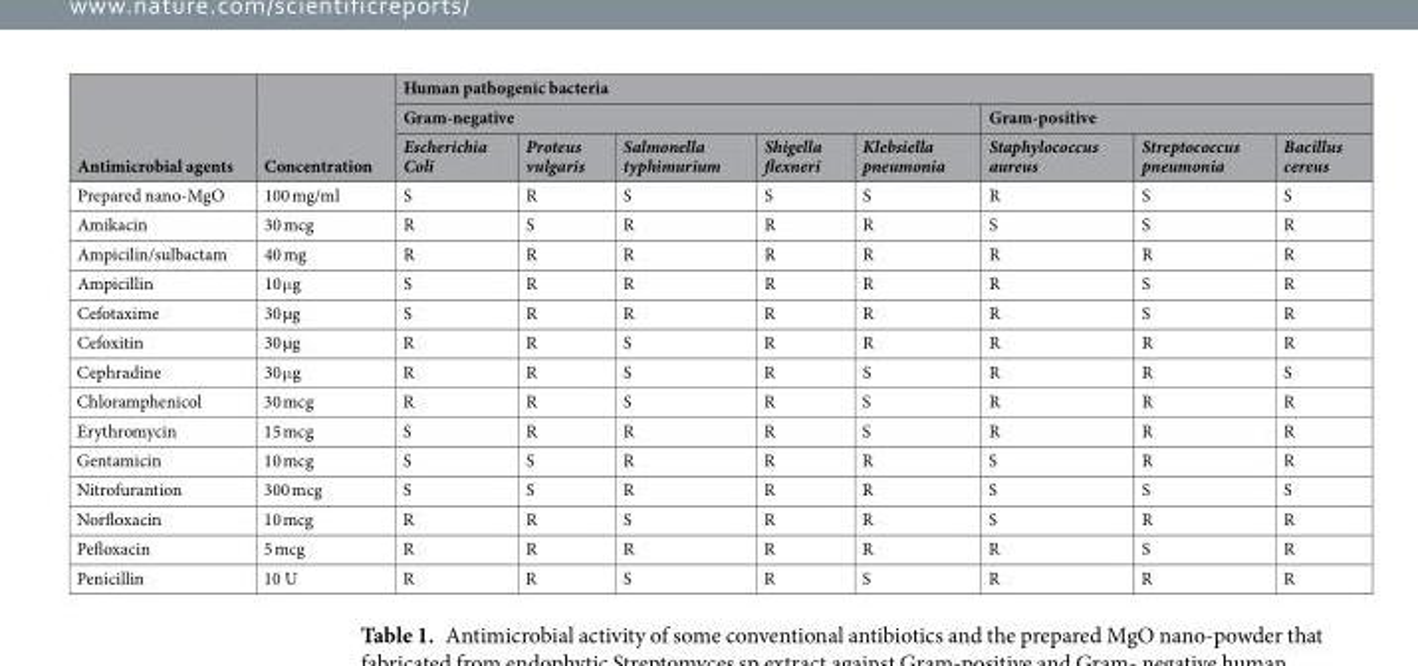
<table><thead><tr><td rowspan="3">Antimicrobial agents</td><td rowspan="3">Concentration</td><td colspan="8">Human pathogenic bacteria</td></tr><tr><td colspan="5">Gram-negative</td><td colspan="3">Gram-positive</td></tr><tr><td>Escherichia Coli</td><td>Proteus vulgaris</td><td>Salmonella typhimurium</td><td>Shigella flexneri</td><td>Klebsiella pneumonia</td><td>Staphylococcus aureus</td><td>Streptococcus pneumonia</td><td>Bacillus cereus</td></tr></thead><tbody><tr><td>Prepared nano-MgO</td><td>100 mg/ml</td><td>S</td><td>R</td><td>S</td><td>S</td><td>S</td><td>R</td><td>S</td><td>S</td></tr><tr><td>Amikacin</td><td>30 mcg</td><td>R</td><td>S</td><td>R</td><td>R</td><td>R</td><td>S</td><td>S</td><td>R</td></tr><tr><td>Ampicilin/sulbactam</td><td>40 mg</td><td>R</td><td>R</td><td>R</td><td>R</td><td>R</td><td>R</td><td>R</td><td>R</td></tr><tr><td>Ampicillin</td><td>10 μg</td><td>S</td><td>R</td><td>R</td><td>R</td><td>R</td><td>R</td><td>S</td><td>R</td></tr><tr><td>Cefotaxime</td><td>30 µg</td><td>S</td><td>R</td><td>R</td><td>R</td><td>R</td><td>R</td><td>S</td><td>R</td></tr><tr><td>Cefoxitin</td><td>30 µg</td><td>R</td><td>R</td><td>S</td><td>R</td><td>R</td><td>R</td><td>R</td><td>R</td></tr><tr><td>Cephradine</td><td>30 μg</td><td>R</td><td>R</td><td>S</td><td>R</td><td>S</td><td>R</td><td>R</td><td>S</td></tr><tr><td>Chloramphenicol</td><td>30 mcg</td><td>R</td><td>R</td><td>S</td><td>R</td><td>S</td><td>R</td><td>R</td><td>R</td></tr><tr><td>Erythromycin</td><td>15 mcg</td><td>S</td><td>R</td><td>R</td><td>R</td><td>S</td><td>R</td><td>R</td><td>R</td></tr><tr><td>Gentamicin</td><td>10 mcg</td><td>S</td><td>S</td><td>R</td><td>R</td><td>R</td><td>S</td><td>R</td><td>R</td></tr><tr><td>Nitrofurantion</td><td>300 mcg</td><td>S</td><td>S</td><td>R</td><td>R</td><td>R</td><td>S</td><td>S</td><td>S</td></tr><tr><td>Norfloxacin</td><td>10 mcg</td><td>R</td><td>R</td><td>S</td><td>R</td><td>R</td><td>S</td><td>R</td><td>R</td></tr><tr><td>Pefloxacin</td><td>5 mcg</td><td>R</td><td>R</td><td>R</td><td>R</td><td>R</td><td>R</td><td>S</td><td>R</td></tr><tr><td>Penicillin</td><td>10 U</td><td>R</td><td>R</td><td>S</td><td>R</td><td>S</td><td>R</td><td>R</td><td>R</td></tr></tbody></table>